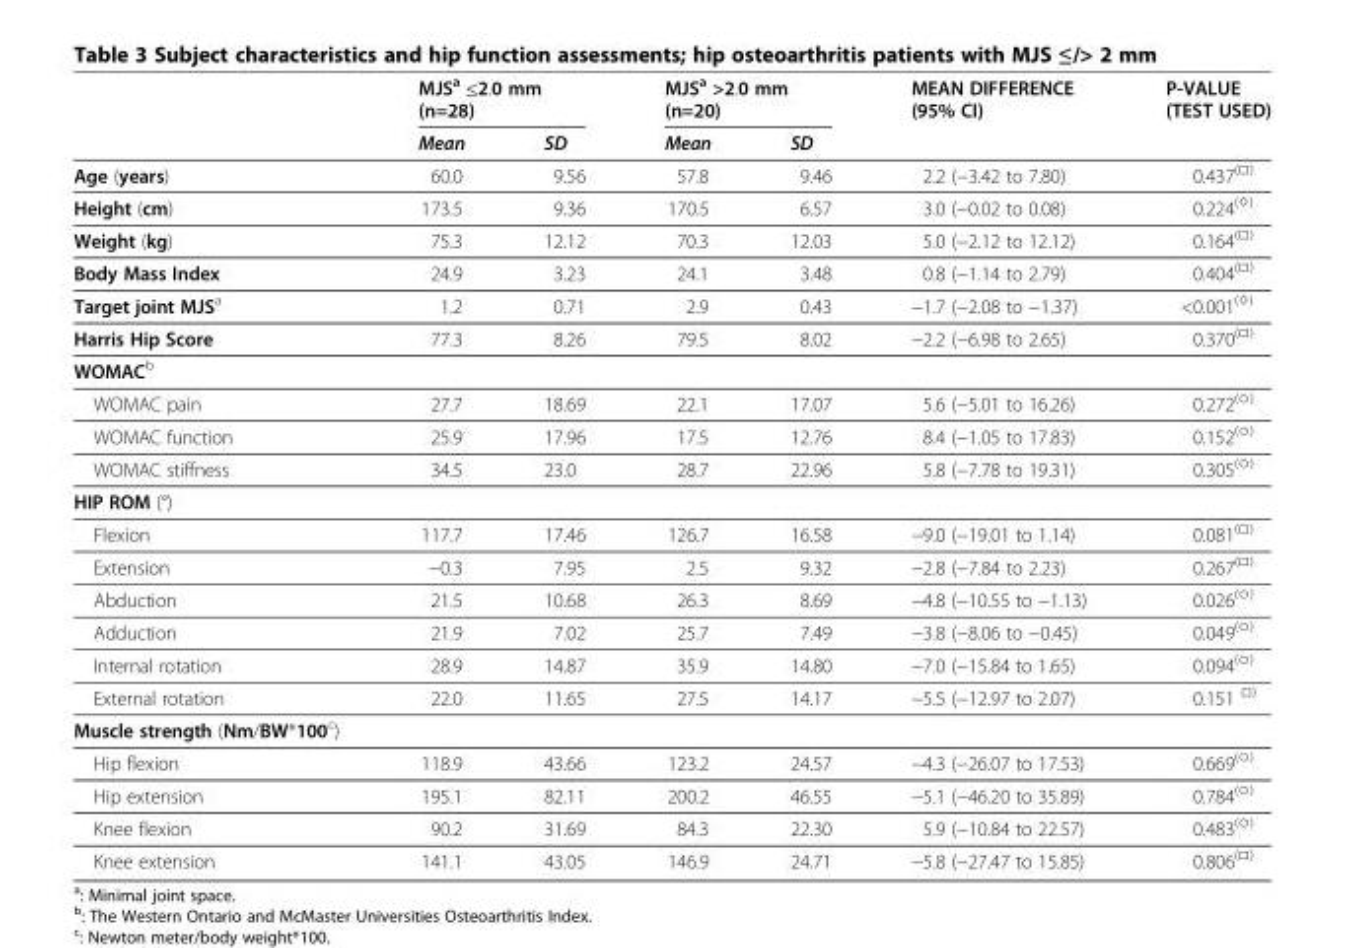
<table><thead><tr><td rowspan="2"></td><td colspan="2">MJS<sup>a</sup> ≤2.0 mm (n=28)</td><td colspan="2">MJS<sup>a</sup> &gt;2.0 mm (n=20)</td><td rowspan="2">MEAN DIFFERENCE (95% CI)</td><td rowspan="2">P-VALUE (TEST USED)</td></tr><tr><td>Mean</td><td>SD</td><td>Mean</td><td>SD</td></tr></thead><tbody><tr><td>Age (years)</td><td>60.0</td><td>9.56</td><td>57.8</td><td>9.46</td><td>2.2 (−3.42 to 7.80)</td><td>0.437<sup>(□)</sup></td></tr><tr><td>Height (cm)</td><td>173.5</td><td>9.36</td><td>170.5</td><td>6.57</td><td>3.0 (−0.02 to 0.08)</td><td>0.224<sup>(◊)</sup></td></tr><tr><td>Weight (kg)</td><td>75.3</td><td>12.12</td><td>70.3</td><td>12.03</td><td>5.0 (−2.12 to 12.12)</td><td>0.164<sup>(□)</sup></td></tr><tr><td>Body Mass Index</td><td>24.9</td><td>3.23</td><td>24.1</td><td>3.48</td><td>0.8 (−1.14 to 2.79)</td><td>0.404<sup>(□)</sup></td></tr><tr><td>Target joint MJS<sup>a</sup></td><td>1.2</td><td>0.71</td><td>2.9</td><td>0.43</td><td>−1.7 (−2.08 to −1.37)</td><td>&lt;0.001<sup>(◊)</sup></td></tr><tr><td>Harris Hip Score</td><td>77.3</td><td>8.26</td><td>79.5</td><td>8.02</td><td>−2.2 (−6.98 to 2.65)</td><td>0.370<sup>(□)</sup></td></tr><tr><td colspan="7">WOMAC<sup>b</sup></td></tr><tr><td>WOMAC pain</td><td>27.7</td><td>18.69</td><td>22.1</td><td>17.07</td><td>5.6 (−5.01 to 16.26)</td><td>0.272<sup>(○)</sup></td></tr><tr><td>WOMAC function</td><td>25.9</td><td>17.96</td><td>17.5</td><td>12.76</td><td>8.4 (−1.05 to 17.83)</td><td>0.152<sup>(○)</sup></td></tr><tr><td>WOMAC stiffness</td><td>34.5</td><td>23.0</td><td>28.7</td><td>22.96</td><td>5.8 (−7.78 to 19.31)</td><td>0.305<sup>(○)</sup></td></tr><tr><td colspan="7">HIP ROM (°)</td></tr><tr><td>Flexion</td><td>117.7</td><td>17.46</td><td>126.7</td><td>16.58</td><td>−9.0 (−19.01 to 1.14)</td><td>0.081<sup>(□)</sup></td></tr><tr><td>Extension</td><td>−0.3</td><td>7.95</td><td>2.5</td><td>9.32</td><td>−2.8 (−7.84 to 2.23)</td><td>0.267<sup>(□)</sup></td></tr><tr><td>Abduction</td><td>21.5</td><td>10.68</td><td>26.3</td><td>8.69</td><td>−4.8 (−10.55 to −1.13)</td><td>0.026<sup>(○)</sup></td></tr><tr><td>Adduction</td><td>21.9</td><td>7.02</td><td>25.7</td><td>7.49</td><td>−3.8 (−8.06 to −0.45)</td><td>0.049<sup>(○)</sup></td></tr><tr><td>Internal rotation</td><td>28.9</td><td>14.87</td><td>35.9</td><td>14.80</td><td>−7.0 (−15.84 to 1.65)</td><td>0.094<sup>(○)</sup></td></tr><tr><td>External rotation</td><td>22.0</td><td>11.65</td><td>27.5</td><td>14.17</td><td>−5.5 (−12.97 to 2.07)</td><td>0.151 <sup>□)</sup></td></tr><tr><td colspan="7">Muscle strength (Nm/BW*100<sup>c</sup>)</td></tr><tr><td>Hip flexion</td><td>118.9</td><td>43.66</td><td>123.2</td><td>24.57</td><td>−4.3 (−26.07 to 17.53)</td><td>0.669<sup>(○)</sup></td></tr><tr><td>Hip extension</td><td>195.1</td><td>82.11</td><td>200.2</td><td>46.55</td><td>−5.1 (−46.20 to 35.89)</td><td>0.784<sup>(○)</sup></td></tr><tr><td>Knee flexion</td><td>90.2</td><td>31.69</td><td>84.3</td><td>22.30</td><td>5.9 (−10.84 to 22.57)</td><td>0.483<sup>(○)</sup></td></tr><tr><td>Knee extension</td><td>141.1</td><td>43.05</td><td>146.9</td><td>24.71</td><td>−5.8 (−27.47 to 15.85)</td><td>0.806<sup>(□)</sup></td></tr></tbody></table>